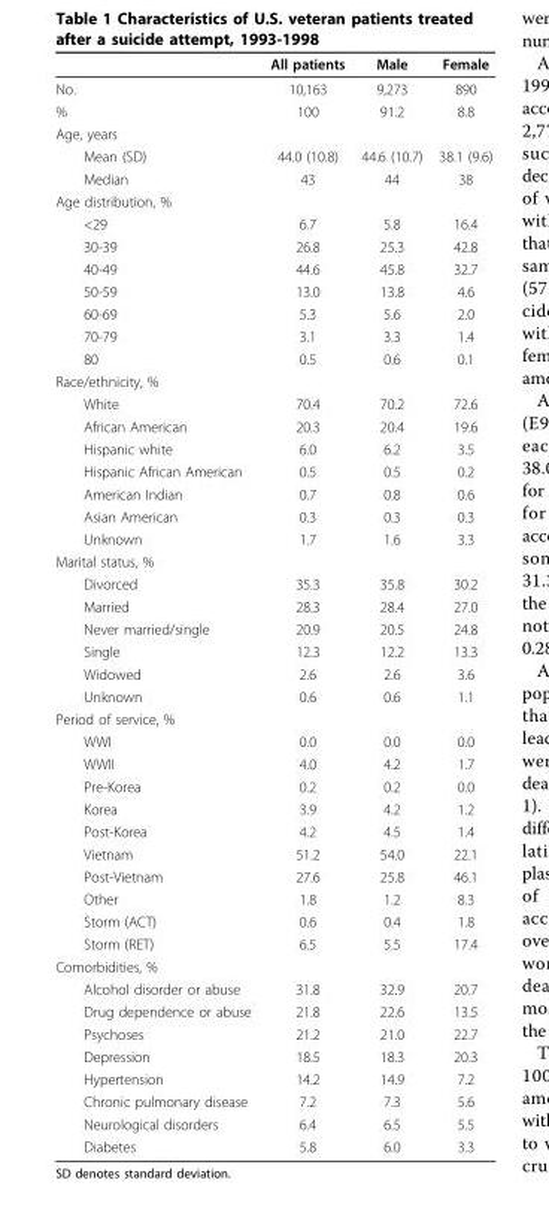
<table><thead><tr><td></td><td>All patients</td><td>Male</td><td>Female</td></tr></thead><tbody><tr><td>No.</td><td>10,163</td><td>9,273</td><td>890</td></tr><tr><td>%</td><td>100</td><td>91.2</td><td>8.8</td></tr><tr><td colspan="4">Age, years</td></tr><tr><td>Mean (SD)</td><td>44.0 (10.8)</td><td>44.6 (10.7)</td><td>38.1 (9.6)</td></tr><tr><td>Median</td><td>43</td><td>44</td><td>38</td></tr><tr><td colspan="4">Age distribution, %</td></tr><tr><td>&lt;29</td><td>6.7</td><td>5.8</td><td>16.4</td></tr><tr><td>30-39</td><td>26.8</td><td>25.3</td><td>42.8</td></tr><tr><td>40-49</td><td>44.6</td><td>45.8</td><td>32.7</td></tr><tr><td>50-59</td><td>13.0</td><td>13.8</td><td>4.6</td></tr><tr><td>60-69</td><td>5.3</td><td>5.6</td><td>2.0</td></tr><tr><td>70-79</td><td>3.1</td><td>3.3</td><td>1.4</td></tr><tr><td>80</td><td>0.5</td><td>0.6</td><td>0.1</td></tr><tr><td colspan="4">Race/ethnicity, %</td></tr><tr><td>White</td><td>70.4</td><td>70.2</td><td>72.6</td></tr><tr><td>African American</td><td>20.3</td><td>20.4</td><td>19.6</td></tr><tr><td>Hispanic white</td><td>6.0</td><td>6.2</td><td>3.5</td></tr><tr><td>Hispanic African American</td><td>0.5</td><td>0.5</td><td>0.2</td></tr><tr><td>American Indian</td><td>0.7</td><td>0.8</td><td>0.6</td></tr><tr><td>Asian American</td><td>0.3</td><td>0.3</td><td>0.3</td></tr><tr><td>Unknown</td><td>1.7</td><td>1.6</td><td>3.3</td></tr><tr><td colspan="4">Marital status, %</td></tr><tr><td>Divorced</td><td>35.3</td><td>35.8</td><td>30.2</td></tr><tr><td>Married</td><td>28.3</td><td>28.4</td><td>27.0</td></tr><tr><td>Never married/single</td><td>20.9</td><td>20.5</td><td>24.8</td></tr><tr><td>Single</td><td>12.3</td><td>12.2</td><td>13.3</td></tr><tr><td>Widowed</td><td>2.6</td><td>2.6</td><td>3.6</td></tr><tr><td>Unknown</td><td>0.6</td><td>0.6</td><td>1.1</td></tr><tr><td colspan="4">Period of service, %</td></tr><tr><td>WWI</td><td>0.0</td><td>0.0</td><td>0.0</td></tr><tr><td>WWII</td><td>4.0</td><td>4.2</td><td>1.7</td></tr><tr><td>Pre-Korea</td><td>0.2</td><td>0.2</td><td>0.0</td></tr><tr><td>Korea</td><td>3.9</td><td>4.2</td><td>1.2</td></tr><tr><td>Post-Korea</td><td>4.2</td><td>4.5</td><td>1.4</td></tr><tr><td>Vietnam</td><td>51.2</td><td>54.0</td><td>22.1</td></tr><tr><td>Post-Vietnam</td><td>27.6</td><td>25.8</td><td>46.1</td></tr><tr><td>Other</td><td>1.8</td><td>1.2</td><td>8.3</td></tr><tr><td>Storm (ACT)</td><td>0.6</td><td>0.4</td><td>1.8</td></tr><tr><td>Storm (RET)</td><td>6.5</td><td>5.5</td><td>17.4</td></tr><tr><td colspan="4">Comorbidities, %</td></tr><tr><td>Alcohol disorder or abuse</td><td>31.8</td><td>32.9</td><td>20.7</td></tr><tr><td>Drug dependence or abuse</td><td>21.8</td><td>22.6</td><td>13.5</td></tr><tr><td>Psychoses</td><td>21.2</td><td>21.0</td><td>22.7</td></tr><tr><td>Depression</td><td>18.5</td><td>18.3</td><td>20.3</td></tr><tr><td>Hypertension</td><td>14.2</td><td>14.9</td><td>7.2</td></tr><tr><td>Chronic pulmonary disease</td><td>7.2</td><td>7.3</td><td>5.6</td></tr><tr><td>Neurological disorders</td><td>6.4</td><td>6.5</td><td>5.5</td></tr><tr><td>Diabetes</td><td>5.8</td><td>6.0</td><td>3.3</td></tr></tbody></table>